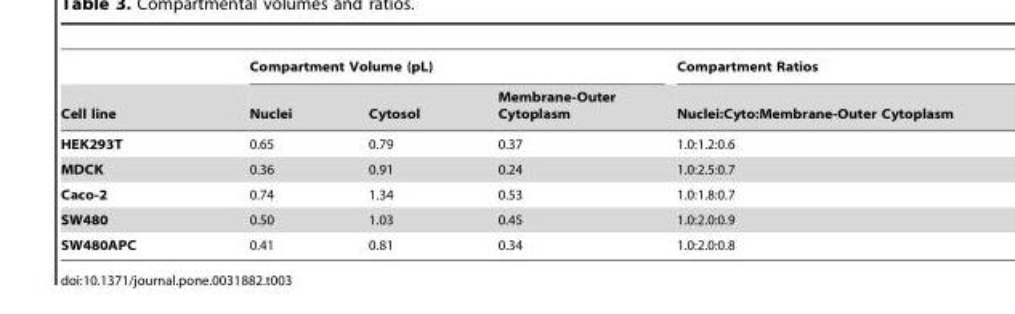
<table><thead><tr><td rowspan="2">Cell line</td><td colspan="3">Compartment Volume (pL)</td><td rowspan="2">Compartment Ratios Nuclei:Cyto:Membrane-Outer Cytoplasm</td></tr><tr><td>Nuclei</td><td>Cytosol</td><td>Membrane-Outer Cytoplasm</td></tr></thead><tbody><tr><td>HEK293T</td><td>0.65</td><td>0.79</td><td>0.37</td><td>1.0:1.2:0.6</td></tr><tr><td>MDCK</td><td>0.36</td><td>0.91</td><td>0.24</td><td>1.0:2.5:0.7</td></tr><tr><td>Caco-2</td><td>0.74</td><td>1.34</td><td>0.53</td><td>1.0:1.8:0.7</td></tr><tr><td>SW480</td><td>0.50</td><td>1.03</td><td>0.45</td><td>1.0:2.0:0.9</td></tr><tr><td>SW480APC</td><td>0.41</td><td>0.81</td><td>0.34</td><td>1.0:2.0:0.8</td></tr></tbody></table>